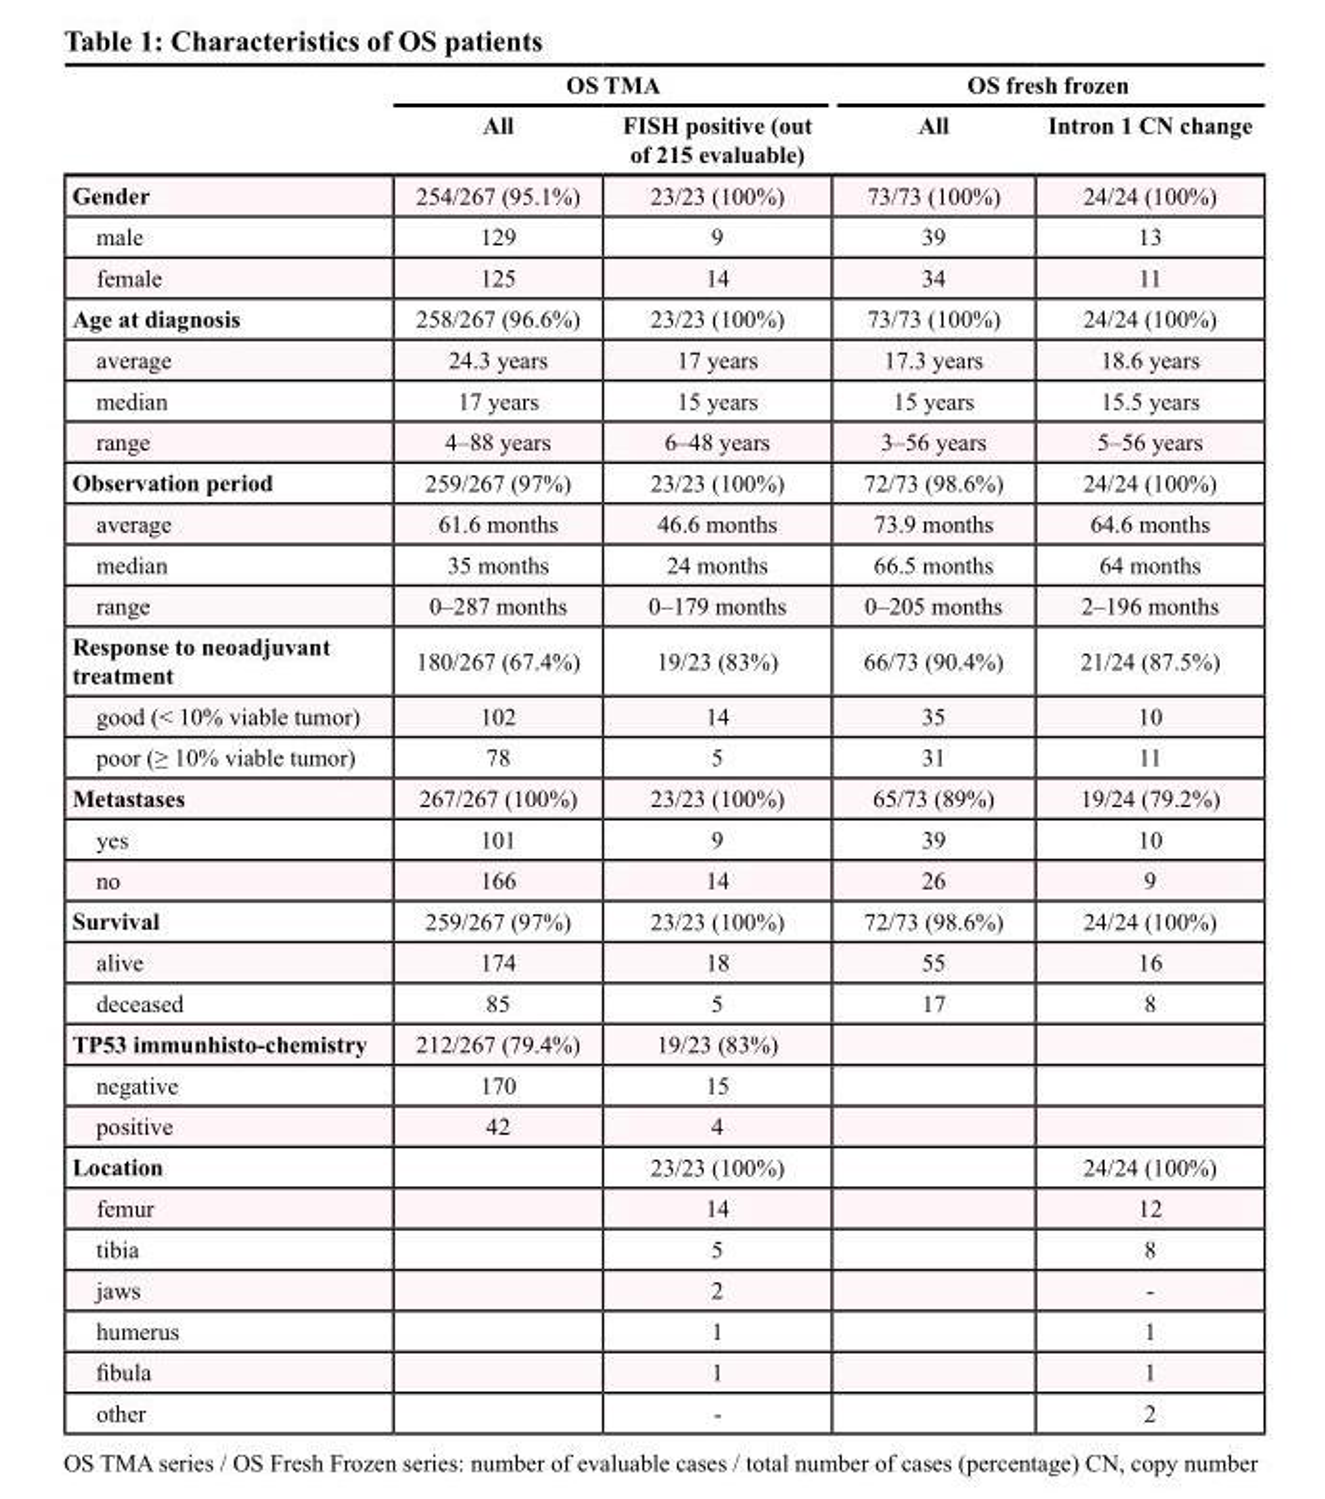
<table><thead><tr><td rowspan="2"></td><td colspan="2">OS TMA</td><td colspan="2">OS fresh frozen</td></tr><tr><td>All</td><td>FISH positive (out of 215 evaluable)</td><td>All</td><td>Intron 1 CN change</td></tr></thead><tbody><tr><td>Gender</td><td>254/267 (95.1%)</td><td>23/23 (100%)</td><td>73/73 (100%)</td><td>24/24 (100%)</td></tr><tr><td>male</td><td>129</td><td>9</td><td>39</td><td>13</td></tr><tr><td>female</td><td>125</td><td>14</td><td>34</td><td>11</td></tr><tr><td>Age at diagnosis</td><td>258/267 (96.6%)</td><td>23/23 (100%)</td><td>73/73 (100%)</td><td>24/24 (100%)</td></tr><tr><td>average</td><td>24.3 years</td><td>17 years</td><td>17.3 years</td><td>18.6 years</td></tr><tr><td>median</td><td>17 years</td><td>15 years</td><td>15 years</td><td>15.5 years</td></tr><tr><td>range</td><td>4–88 years</td><td>6–48 years</td><td>3–56 years</td><td>5–56 years</td></tr><tr><td>Observation period</td><td>259/267 (97%)</td><td>23/23 (100%)</td><td>72/73 (98.6%)</td><td>24/24 (100%)</td></tr><tr><td>average</td><td>61.6 months</td><td>46.6 months</td><td>73.9 months</td><td>64.6 months</td></tr><tr><td>median</td><td>35 months</td><td>24 months</td><td>66.5 months</td><td>64 months</td></tr><tr><td>range</td><td>0–287 months</td><td>0–179 months</td><td>0–205 months</td><td>2–196 months</td></tr><tr><td>Response to neoadjuvant treatment</td><td>180/267 (67.4%)</td><td>19/23 (83%)</td><td>66/73 (90.4%)</td><td>21/24 (87.5%)</td></tr><tr><td>good (&lt; 10% viable tumor)</td><td>102</td><td>14</td><td>35</td><td>10</td></tr><tr><td>poor (≥ 10% viable tumor)</td><td>78</td><td>5</td><td>31</td><td>11</td></tr><tr><td>Metastases</td><td>267/267 (100%)</td><td>23/23 (100%)</td><td>65/73 (89%)</td><td>19/24 (79.2%)</td></tr><tr><td>yes</td><td>101</td><td>9</td><td>39</td><td>10</td></tr><tr><td>no</td><td>166</td><td>14</td><td>26</td><td>9</td></tr><tr><td>Survival</td><td>259/267 (97%)</td><td>23/23 (100%)</td><td>72/73 (98.6%)</td><td>24/24 (100%)</td></tr><tr><td>alive</td><td>174</td><td>18</td><td>55</td><td>16</td></tr><tr><td>deceased</td><td>85</td><td>5</td><td>17</td><td>8</td></tr><tr><td>TP53 immunhisto-chemistry</td><td>212/267 (79.4%)</td><td>19/23 (83%)</td><td></td><td></td></tr><tr><td>negative</td><td>170</td><td>15</td><td></td><td></td></tr><tr><td>positive</td><td>42</td><td>4</td><td></td><td></td></tr><tr><td>Location</td><td></td><td>23/23 (100%)</td><td></td><td>24/24 (100%)</td></tr><tr><td>femur</td><td></td><td>14</td><td></td><td>12</td></tr><tr><td>tibia</td><td></td><td>5</td><td></td><td>8</td></tr><tr><td>jaws</td><td></td><td>2</td><td></td><td>-</td></tr><tr><td>humerus</td><td></td><td>1</td><td></td><td>1</td></tr><tr><td>fibula</td><td></td><td>1</td><td></td><td>1</td></tr><tr><td>other</td><td></td><td>-</td><td></td><td>2</td></tr></tbody></table>